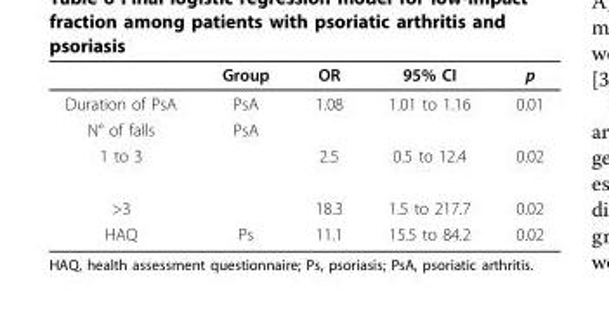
<table><thead><tr><td></td><td>Group</td><td>OR</td><td>95% CI</td><td>p</td></tr></thead><tbody><tr><td>Duration of PsA</td><td>PsA</td><td>1.08</td><td>1.01 to 1.16</td><td>0.01</td></tr><tr><td>N° of falls</td><td>PsA</td><td></td><td></td><td></td></tr><tr><td>1 to 3</td><td></td><td>2.5</td><td>0.5 to 12.4</td><td>0.02</td></tr><tr><td>&gt;3</td><td></td><td>18.3</td><td>1.5 to 217.7</td><td>0.02</td></tr><tr><td>HAQ</td><td>Ps</td><td>11.1</td><td>15.5 to 84.2</td><td>0.02</td></tr></tbody></table>